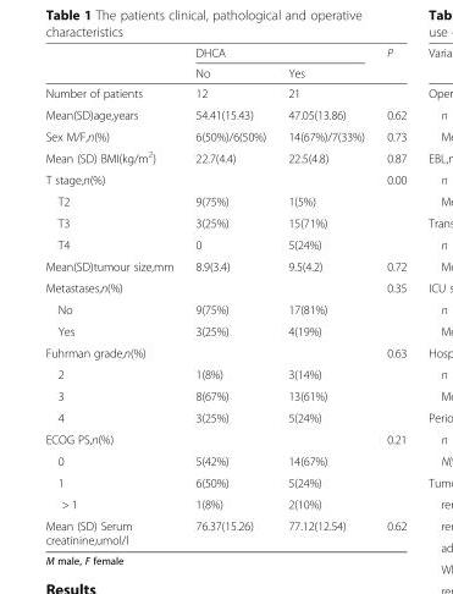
<table><thead><tr><td rowspan="2"></td><td colspan="2">DHCA</td><td rowspan="2">P</td></tr><tr><td>No</td><td>Yes</td></tr></thead><tbody><tr><td>Number of patients</td><td>12</td><td>21</td><td></td></tr><tr><td>Mean(SD)age,years</td><td>54.41(15.43)</td><td>47.05(13.86)</td><td>0.62</td></tr><tr><td>Sex M/F,n(%)</td><td>6(50%)/6(50%)</td><td>14(67%)/7(33%)</td><td>0.73</td></tr><tr><td>Mean (SD) BMI(kg/m<sup>2</sup>)</td><td>22.7(4.4)</td><td>22.5(4.8)</td><td>0.87</td></tr><tr><td>T stage,n(%)</td><td></td><td></td><td>0.00</td></tr><tr><td>T2</td><td>9(75%)</td><td>1(5%)</td><td></td></tr><tr><td>T3</td><td>3(25%)</td><td>15(71%)</td><td></td></tr><tr><td>T4</td><td>0</td><td>5(24%)</td><td></td></tr><tr><td>Mean(SD)tumour size,mm</td><td>8.9(3.4)</td><td>9.5(4.2)</td><td>0.72</td></tr><tr><td>Metastases,n(%)</td><td></td><td></td><td>0.35</td></tr><tr><td>No</td><td>9(75%)</td><td>17(81%)</td><td></td></tr><tr><td>Yes</td><td>3(25%)</td><td>4(19%)</td><td></td></tr><tr><td>Fuhrman grade,n(%)</td><td></td><td></td><td>0.63</td></tr><tr><td>2</td><td>1(8%)</td><td>3(14%)</td><td></td></tr><tr><td>3</td><td>8(67%)</td><td>13(61%)</td><td></td></tr><tr><td>4</td><td>3(25%)</td><td>5(24%)</td><td></td></tr><tr><td>ECOG PS,n(%)</td><td></td><td></td><td>0.21</td></tr><tr><td>0</td><td>5(42%)</td><td>14(67%)</td><td></td></tr><tr><td>1</td><td>6(50%)</td><td>5(24%)</td><td></td></tr><tr><td>&gt; 1</td><td>1(8%)</td><td>2(10%)</td><td></td></tr><tr><td>Mean (SD) Serum creatinine,umol/l</td><td>76.37(15.26)</td><td>77.12(12.54)</td><td>0.62</td></tr></tbody></table>